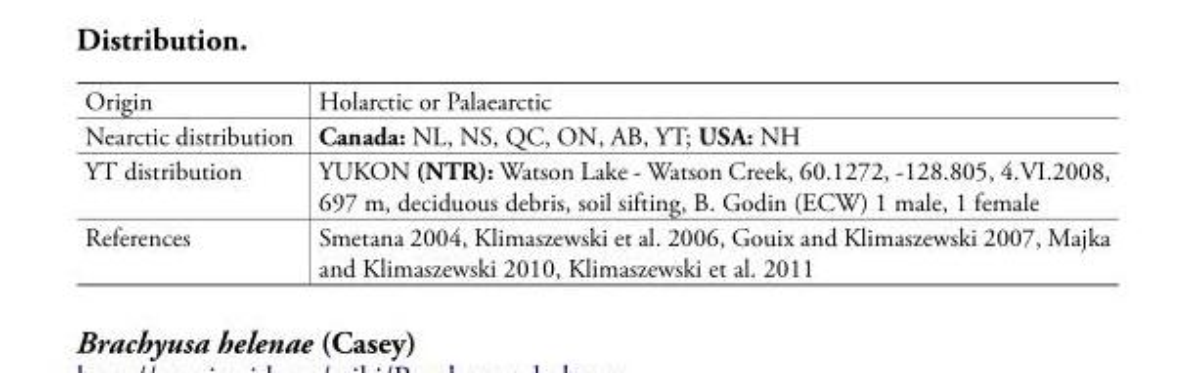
<table><tbody><tr><td>Origin</td><td>Holarctic or Palaearctic</td></tr><tr><td>Nearctic distribution</td><td>Canada: NL, NS, QC, ON, AB, YT; USA: NH</td></tr><tr><td>YT distribution</td><td>YUKON (NTR): Watson Lake - Watson Creek, 60.1272, -128.805, 4.VI.2008, 697 m, deciduous debris, soil sifting, B. Godin (ECW) 1 male, 1 female</td></tr><tr><td>References</td><td>Smetana 2004, Klimaszewski et al. 2006, Gouix and Klimaszewski 2007, Majka and Klimaszewski 2010, Klimaszewski et al. 2011</td></tr></tbody></table>